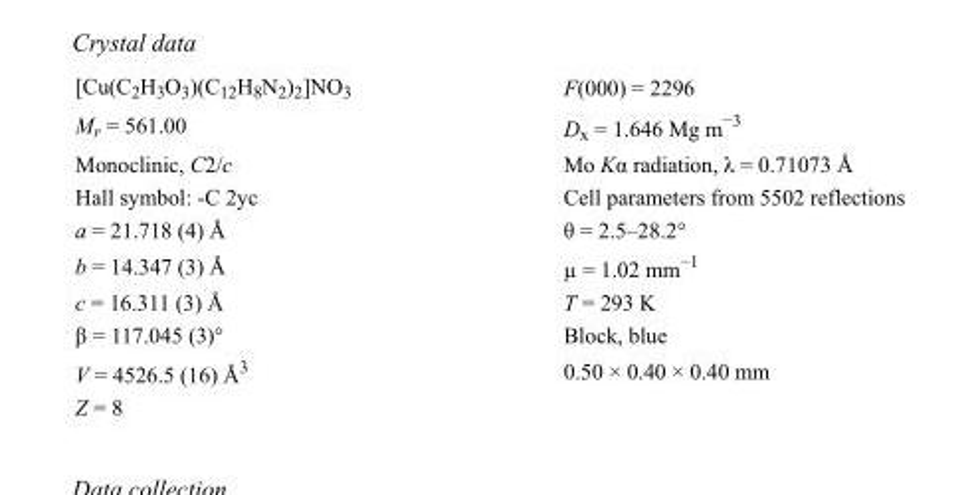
<table><tbody><tr><td>[Cu(C<sub>2</sub>H<sub>3</sub>O<sub>3</sub>)(C<sub>12</sub>H<sub>8</sub>N<sub>2</sub>)<sub>2</sub>]NO<sub>3</sub></td><td>F(000) = 2296</td></tr><tr><td>M<sub>r</sub> = 561.00</td><td>D<sub>x</sub> = 1.646 Mg m<sup>−3</sup></td></tr><tr><td>Monoclinic, C2/c</td><td>Mo Kα radiation, λ = 0.71073 Å</td></tr><tr><td>Hall symbol: -C 2yc</td><td>Cell parameters from 5502 reflections</td></tr><tr><td>a = 21.718 (4) Å</td><td>θ = 2.5–28.2°</td></tr><tr><td>b = 14.347 (3) Å</td><td>µ = 1.02 mm<sup>−1</sup></td></tr><tr><td>c = 16.311 (3) Å</td><td>T = 293 K</td></tr><tr><td>β = 117.045 (3)°</td><td>Block, blue</td></tr><tr><td>V = 4526.5 (16) Å<sup>3</sup></td><td>0.50 × 0.40 × 0.40 mm</td></tr><tr><td>Z = 8</td><td></td></tr></tbody></table>